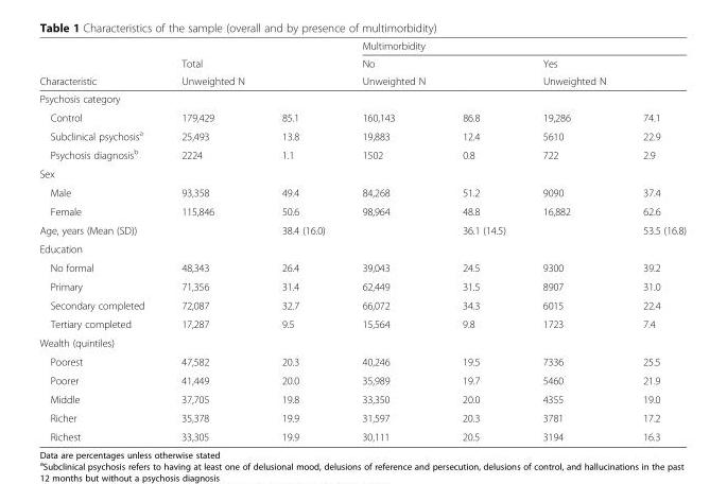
<table><thead><tr><td rowspan="3">Characteristic</td><td rowspan="3">Total Unweighted N</td><td rowspan="3"></td><td colspan="4">Multimorbidity</td></tr><tr><td rowspan="2">No Unweighted N</td><td rowspan="2"></td><td rowspan="2">Yes Unweighted N</td><td rowspan="2"></td></tr><tr></tr></thead><tbody><tr><td colspan="7">Psychosis category</td></tr><tr><td>Control</td><td>179,429</td><td>85.1</td><td>160,143</td><td>86.8</td><td>19,286</td><td>74.1</td></tr><tr><td>Subclinical psychosis<sup>a</sup></td><td>25,493</td><td>13.8</td><td>19,883</td><td>12.4</td><td>5610</td><td>22.9</td></tr><tr><td>Psychosis diagnosis<sup>b</sup></td><td>2224</td><td>1.1</td><td>1502</td><td>0.8</td><td>722</td><td>2.9</td></tr><tr><td colspan="7">Sex</td></tr><tr><td>Male</td><td>93,358</td><td>49.4</td><td>84,268</td><td>51.2</td><td>9090</td><td>37.4</td></tr><tr><td>Female</td><td>115,846</td><td>50.6</td><td>98,964</td><td>48.8</td><td>16,882</td><td>62.6</td></tr><tr><td>Age, years (Mean (SD))</td><td></td><td>38.4 (16.0)</td><td></td><td>36.1 (14.5)</td><td></td><td>53.5 (16.8)</td></tr><tr><td colspan="7">Education</td></tr><tr><td>No formal</td><td>48,343</td><td>26.4</td><td>39,043</td><td>24.5</td><td>9300</td><td>39.2</td></tr><tr><td>Primary</td><td>71,356</td><td>31.4</td><td>62,449</td><td>31.5</td><td>8907</td><td>31.0</td></tr><tr><td>Secondary completed</td><td>72,087</td><td>32.7</td><td>66,072</td><td>34.3</td><td>6015</td><td>22.4</td></tr><tr><td>Tertiary completed</td><td>17,287</td><td>9.5</td><td>15,564</td><td>9.8</td><td>1723</td><td>7.4</td></tr><tr><td colspan="7">Wealth (quintiles)</td></tr><tr><td>Poorest</td><td>47,582</td><td>20.3</td><td>40,246</td><td>19.5</td><td>7336</td><td>25.5</td></tr><tr><td>Poorer</td><td>41,449</td><td>20.0</td><td>35,989</td><td>19.7</td><td>5460</td><td>21.9</td></tr><tr><td>Middle</td><td>37,705</td><td>19.8</td><td>33,350</td><td>20.0</td><td>4355</td><td>19.0</td></tr><tr><td>Richer</td><td>35,378</td><td>19.9</td><td>31,597</td><td>20.3</td><td>3781</td><td>17.2</td></tr><tr><td>Richest</td><td>33,305</td><td>19.9</td><td>30,111</td><td>20.5</td><td>3194</td><td>16.3</td></tr></tbody></table>